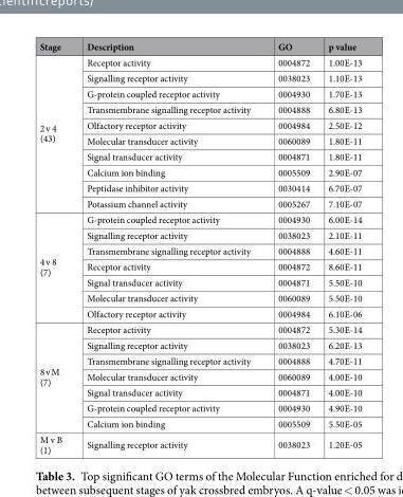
<table><thead><tr><td>Stage</td><td>Description</td><td>GO</td><td>p value</td></tr></thead><tbody><tr><td rowspan="10">2 v 4 (43)</td><td>Receptor activity</td><td>0004872</td><td>1.00E-13</td></tr><tr><td>Signalling receptor activity</td><td>0038023</td><td>1.10E-13</td></tr><tr><td>G-protein coupled receptor activity</td><td>0004930</td><td>1.70E-13</td></tr><tr><td>Transmembrane signalling receptor activity</td><td>0004888</td><td>6.80E-13</td></tr><tr><td>Olfactory receptor activity</td><td>0004984</td><td>2.50E-12</td></tr><tr><td>Molecular transducer activity</td><td>0060089</td><td>1.80E-11</td></tr><tr><td>Signal transducer activity</td><td>0004871</td><td>1.80E-11</td></tr><tr><td>Calcium ion binding</td><td>0005509</td><td>2.90E-07</td></tr><tr><td>Peptidase inhibitor activity</td><td>0030414</td><td>6.70E-07</td></tr><tr><td>Potassium channel activity</td><td>0005267</td><td>7.10E-07</td></tr><tr><td rowspan="7">4 v 8 (7)</td><td>G-protein coupled receptor activity</td><td>0004930</td><td>6.00E-14</td></tr><tr><td>Signalling receptor activity</td><td>0038023</td><td>2.10E-11</td></tr><tr><td>Transmembrane signalling receptor activity</td><td>0004888</td><td>4.60E-11</td></tr><tr><td>Receptor activity</td><td>0004872</td><td>8.60E-11</td></tr><tr><td>Signal transducer activity</td><td>0004871</td><td>5.50E-10</td></tr><tr><td>Molecular transducer activity</td><td>0060089</td><td>5.50E-10</td></tr><tr><td>Olfactory receptor activity</td><td>0004984</td><td>6.10E-06</td></tr><tr><td rowspan="7">8 v M (7)</td><td>Receptor activity</td><td>0004872</td><td>5.30E-14</td></tr><tr><td>Signalling receptor activity</td><td>0038023</td><td>6.20E-13</td></tr><tr><td>Transmembrane signalling receptor activity</td><td>0004888</td><td>4.70E-11</td></tr><tr><td>Molecular transducer activity</td><td>0060089</td><td>4.00E-10</td></tr><tr><td>Signal transducer activity</td><td>0004871</td><td>4.00E-10</td></tr><tr><td>G-protein coupled receptor activity</td><td>0004930</td><td>4.90E-10</td></tr><tr><td>Calcium ion binding</td><td>0005509</td><td>5.50E-05</td></tr><tr><td>M v B (1)</td><td>Signalling receptor activity</td><td>0038023</td><td>1.20E-05</td></tr></tbody></table>